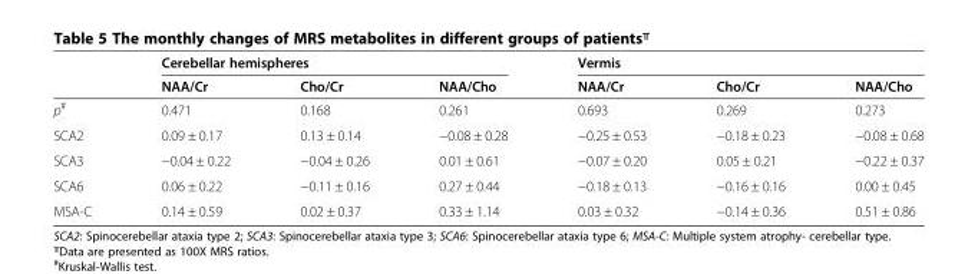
<table><thead><tr><td rowspan="2"></td><td colspan="3">Cerebellar hemispheres</td><td colspan="3">Vermis</td></tr><tr><td>NAA/Cr</td><td>Cho/Cr</td><td>NAA/Cho</td><td>NAA/Cr</td><td>Cho/Cr</td><td>NAA/Cho</td></tr></thead><tbody><tr><td>p<sup>#</sup></td><td>0.471</td><td>0.168</td><td>0.261</td><td>0.693</td><td>0.269</td><td>0.273</td></tr><tr><td>SCA2</td><td>0.09 ± 0.17</td><td>0.13 ± 0.14</td><td>−0.08 ± 0.28</td><td>−0.25 ± 0.53</td><td>−0.18 ± 0.23</td><td>−0.08 ± 0.68</td></tr><tr><td>SCA3</td><td>−0.04 ± 0.22</td><td>−0.04 ± 0.26</td><td>0.01 ± 0.61</td><td>−0.07 ± 0.20</td><td>0.05 ± 0.21</td><td>−0.22 ± 0.37</td></tr><tr><td>SCA6</td><td>0.06 ± 0.22</td><td>−0.11 ± 0.16</td><td>0.27 ± 0.44</td><td>−0.18 ± 0.13</td><td>−0.16 ± 0.16</td><td>0.00 ± 0.45</td></tr><tr><td>MSA-C</td><td>0.14 ± 0.59</td><td>0.02 ± 0.37</td><td>0.33 ± 1.14</td><td>0.03 ± 0.32</td><td>−0.14 ± 0.36</td><td>0.51 ± 0.86</td></tr></tbody></table>